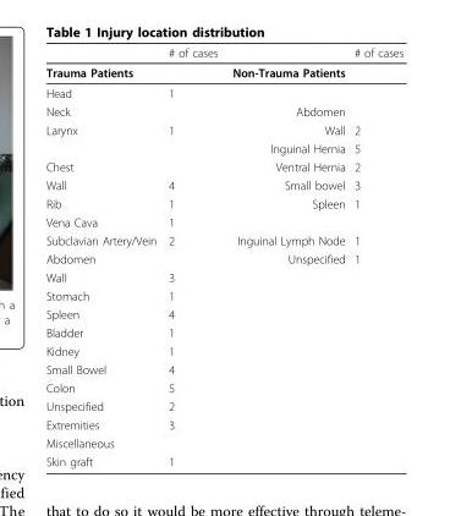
<table><thead><tr><td></td><td># of cases</td><td></td><td># of cases</td></tr></thead><tbody><tr><td>Trauma Patients</td><td></td><td>Non-Trauma Patients</td><td></td></tr><tr><td>Head</td><td>1</td><td></td><td></td></tr><tr><td>Neck</td><td></td><td>Abdomen</td><td></td></tr><tr><td rowspan="2">Larynx</td><td>1</td><td>Wall</td><td>2</td></tr><tr><td></td><td>Inguinal Hernia</td><td>5</td></tr><tr><td>Chest</td><td></td><td>Ventral Hernia</td><td>2</td></tr><tr><td>Wall</td><td>4</td><td>Small bowel</td><td>3</td></tr><tr><td>Rib</td><td>1</td><td>Spleen</td><td>1</td></tr><tr><td>Vena Cava</td><td>1</td><td></td><td></td></tr><tr><td>Subclavian Artery/Vein</td><td>2</td><td>Inguinal Lymph Node</td><td>1</td></tr><tr><td>Abdomen</td><td></td><td>Unspecified</td><td>1</td></tr><tr><td>Wall</td><td>3</td><td></td><td></td></tr><tr><td>Stomach</td><td>1</td><td></td><td></td></tr><tr><td>Spleen</td><td>4</td><td></td><td></td></tr><tr><td>Bladder</td><td>1</td><td></td><td></td></tr><tr><td>Kidney</td><td>1</td><td></td><td></td></tr><tr><td>Small Bowel</td><td>4</td><td></td><td></td></tr><tr><td>Colon</td><td>5</td><td></td><td></td></tr><tr><td>Unspecified</td><td>2</td><td></td><td></td></tr><tr><td>Extremities</td><td>3</td><td></td><td></td></tr><tr><td colspan="4">Miscellaneous</td></tr><tr><td>Skin graft</td><td>1</td><td></td><td></td></tr></tbody></table>